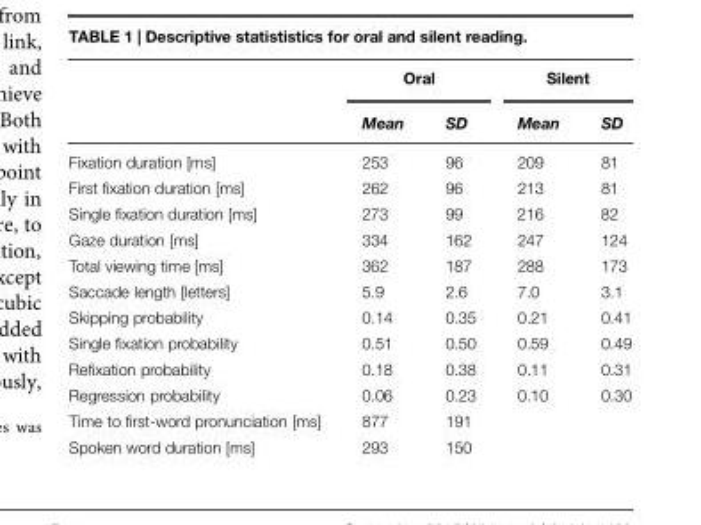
<table><thead><tr><td rowspan="2"></td><td colspan="2">Oral</td><td colspan="2">Silent</td></tr><tr><td>Mean</td><td>SD</td><td>Mean</td><td>SD</td></tr></thead><tbody><tr><td>Fixation duration [ms]</td><td>253</td><td>96</td><td>209</td><td>81</td></tr><tr><td>First fixation duration [ms]</td><td>262</td><td>96</td><td>213</td><td>81</td></tr><tr><td>Single fixation duration [ms]</td><td>273</td><td>99</td><td>216</td><td>82</td></tr><tr><td>Gaze duration [ms]</td><td>334</td><td>162</td><td>247</td><td>124</td></tr><tr><td>Total viewing time [ms]</td><td>362</td><td>187</td><td>288</td><td>173</td></tr><tr><td>Saccade length [letters]</td><td>5.9</td><td>2.6</td><td>7.0</td><td>3.1</td></tr><tr><td>Skipping probability</td><td>0.14</td><td>0.35</td><td>0.21</td><td>0.41</td></tr><tr><td>Single fixation probability</td><td>0.51</td><td>0.50</td><td>0.59</td><td>0.49</td></tr><tr><td>Refixation probability</td><td>0.18</td><td>0.38</td><td>0.11</td><td>0.31</td></tr><tr><td>Regression probability</td><td>0.06</td><td>0.23</td><td>0.10</td><td>0.30</td></tr><tr><td>Time to first-word pronunciation [ms]</td><td>877</td><td>191</td><td></td><td></td></tr><tr><td>Spoken word duration [ms]</td><td>293</td><td>150</td><td></td><td></td></tr></tbody></table>